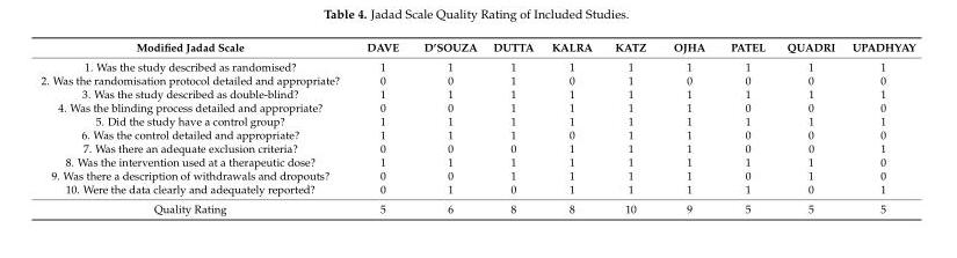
<table><thead><tr><td>Modified Jadad Scale</td><td>DAVE</td><td>D’SOUZA</td><td>DUTTA</td><td>KALRA</td><td>KATZ</td><td>OJHA</td><td>PATEL</td><td>QUADRI</td><td>UPADHYAY</td></tr></thead><tbody><tr><td>1. Was the study described as randomised?</td><td>1</td><td>1</td><td>1</td><td>1</td><td>1</td><td>1</td><td>1</td><td>1</td><td>1</td></tr><tr><td>2. Was the randomisation protocol detailed and appropriate?</td><td>0</td><td>0</td><td>1</td><td>0</td><td>1</td><td>0</td><td>0</td><td>0</td><td>0</td></tr><tr><td>3. Was the study described as double-blind?</td><td>1</td><td>1</td><td>1</td><td>1</td><td>1</td><td>1</td><td>1</td><td>1</td><td>1</td></tr><tr><td>4. Was the blinding process detailed and appropriate?</td><td>0</td><td>0</td><td>1</td><td>1</td><td>1</td><td>1</td><td>0</td><td>0</td><td>0</td></tr><tr><td>5. Did the study have a control group?</td><td>1</td><td>1</td><td>1</td><td>1</td><td>1</td><td>1</td><td>1</td><td>1</td><td>1</td></tr><tr><td>6. Was the control detailed and appropriate?</td><td>1</td><td>1</td><td>1</td><td>0</td><td>1</td><td>1</td><td>0</td><td>0</td><td>0</td></tr><tr><td>7. Was there an adequate exclusion criteria?</td><td>0</td><td>0</td><td>0</td><td>1</td><td>1</td><td>1</td><td>0</td><td>0</td><td>1</td></tr><tr><td>8. Was the intervention used at a therapeutic dose?</td><td>1</td><td>1</td><td>1</td><td>1</td><td>1</td><td>1</td><td>1</td><td>1</td><td>0</td></tr><tr><td>9. Was there a description of withdrawals and dropouts?</td><td>0</td><td>0</td><td>1</td><td>1</td><td>1</td><td>1</td><td>0</td><td>1</td><td>0</td></tr><tr><td>10. Were the data clearly and adequately reported?</td><td>0</td><td>1</td><td>0</td><td>1</td><td>1</td><td>1</td><td>1</td><td>0</td><td>1</td></tr><tr><td>Quality Rating</td><td>5</td><td>6</td><td>8</td><td>8</td><td>10</td><td>9</td><td>5</td><td>5</td><td>5</td></tr></tbody></table>